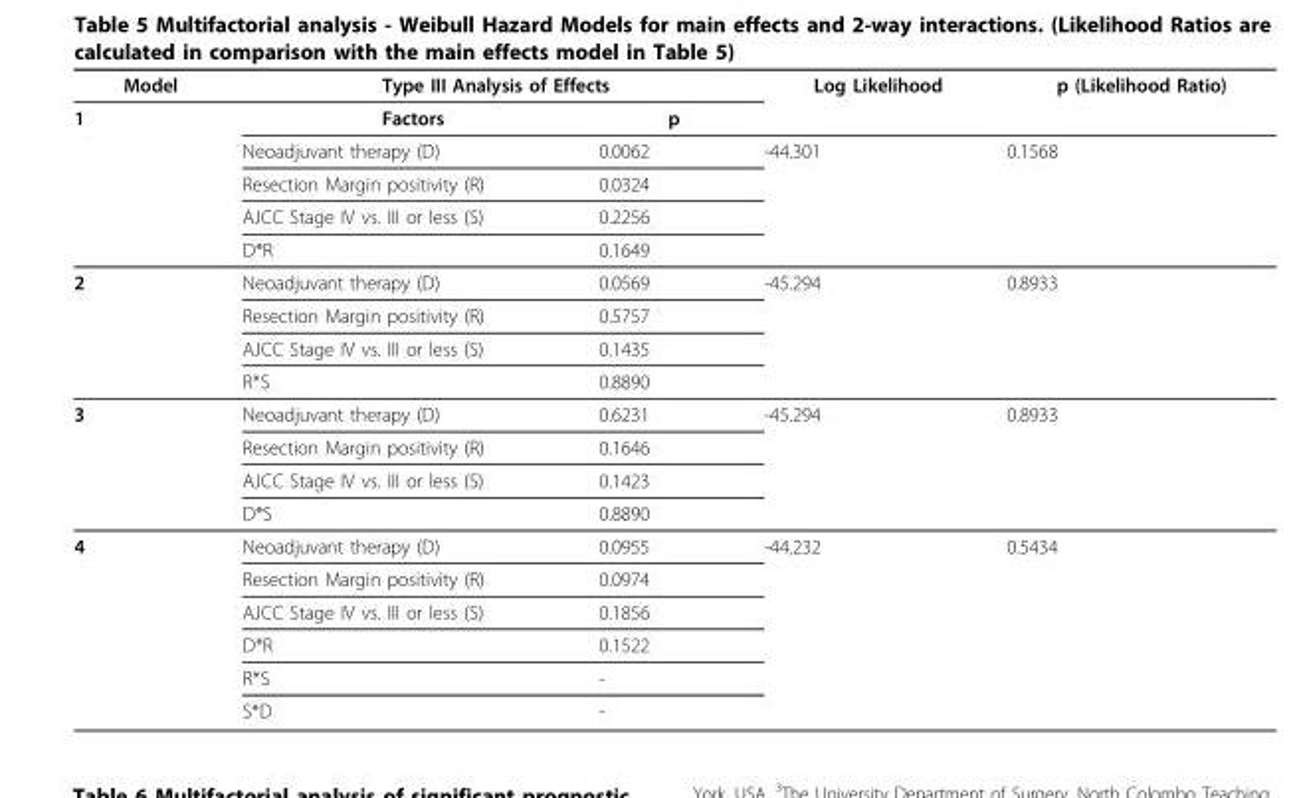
<table><thead><tr><td rowspan="6">Model 1</td><td colspan="2">Type III Analysis of Effects</td><td rowspan="6">Log Likelihood -44.301</td><td rowspan="6">p (Likelihood Ratio) 0.1568</td></tr><tr><td rowspan="5">Factors Neoadjuvant therapy (D) Resection Margin positivity (R) AJCC Stage IV vs. III or less (S) D*R</td><td rowspan="5">p 0.0062 0.0324 0.2256 0.1649</td></tr><tr></tr><tr></tr><tr></tr><tr></tr></thead><tbody><tr><td rowspan="4">2</td><td>Neoadjuvant therapy (D)</td><td>0.0569</td><td>-45.294</td><td>0.8933</td></tr><tr><td>Resection Margin positivity (R)</td><td>0.5757</td><td></td><td></td></tr><tr><td>AJCC Stage IV vs. III or less (S)</td><td>0.1435</td><td></td><td></td></tr><tr><td>R*S</td><td>0.8890</td><td></td><td></td></tr><tr><td rowspan="4">3</td><td>Neoadjuvant therapy (D)</td><td>0.6231</td><td>-45.294</td><td>0.8933</td></tr><tr><td>Resection Margin positivity (R)</td><td>0.1646</td><td></td><td></td></tr><tr><td>AJCC Stage IV vs. III or less (S)</td><td>0.1423</td><td></td><td></td></tr><tr><td>D*S</td><td>0.8890</td><td></td><td></td></tr><tr><td rowspan="6">4</td><td>Neoadjuvant therapy (D)</td><td>0.0955</td><td>-44.232</td><td>0.5434</td></tr><tr><td>Resection Margin positivity (R)</td><td>0.0974</td><td></td><td></td></tr><tr><td>AJCC Stage IV vs. III or less (S)</td><td>0.1856</td><td></td><td></td></tr><tr><td>D*R</td><td>0.1522</td><td></td><td></td></tr><tr><td>R*S</td><td>-</td><td></td><td></td></tr><tr><td>S*D</td><td>-</td><td></td><td></td></tr></tbody></table>